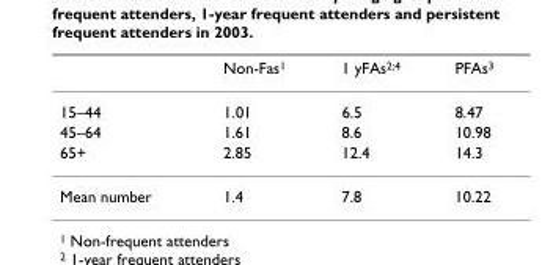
<table><thead><tr><td></td><td>Non-Fas<sup>1</sup></td><td>1 yFAs<sup>2;4</sup></td><td>PFAs<sup>3</sup></td></tr></thead><tbody><tr><td>15–44</td><td>1.01</td><td>6.5</td><td>8.47</td></tr><tr><td>45–64</td><td>1.61</td><td>8.6</td><td>10.98</td></tr><tr><td>65+</td><td>2.85</td><td>12.4</td><td>14.3</td></tr><tr><td>Mean number</td><td>1.4</td><td>7.8</td><td>10.22</td></tr></tbody></table>